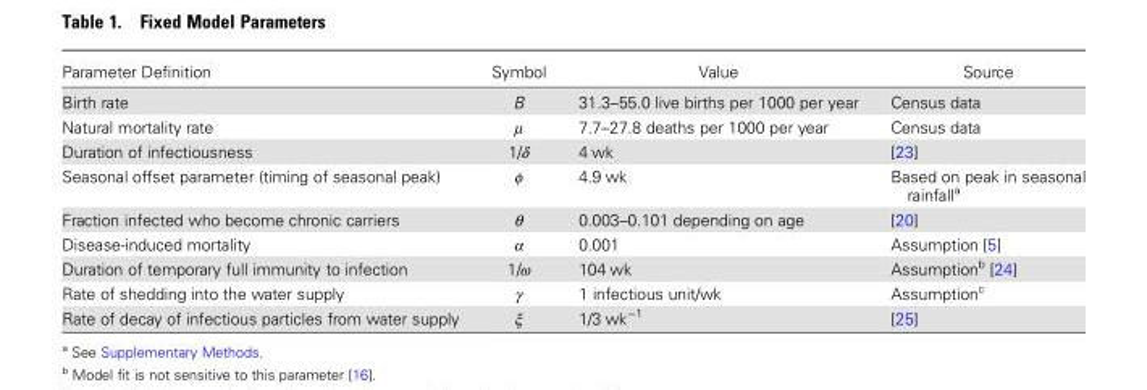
<table><thead><tr><td>Parameter Definition</td><td>Symbol</td><td>Value</td><td>Source</td></tr></thead><tbody><tr><td>Birth rate</td><td>B</td><td>31.3–55.0 live births per 1000 per year</td><td>Census data</td></tr><tr><td>Natural mortality rate</td><td>μ</td><td>7.7–27.8 deaths per 1000 per year</td><td>Census data</td></tr><tr><td>Duration of infectiousness</td><td>1/δ</td><td>4 wk</td><td>[23]</td></tr><tr><td>Seasonal offset parameter (timing of seasonal peak)</td><td>φ</td><td>4.9 wk</td><td>Based on peak in seasonal rainfall<sup>a</sup></td></tr><tr><td>Fraction infected who become chronic carriers</td><td>θ</td><td>0.003–0.101 depending on age</td><td>[20]</td></tr><tr><td>Disease-induced mortality</td><td>α</td><td>0.001</td><td>Assumption [5]</td></tr><tr><td>Duration of temporary full immunity to infection</td><td>1/ω</td><td>104 wk</td><td>Assumption<sup>b</sup> [24]</td></tr><tr><td>Rate of shedding into the water supply</td><td>γ</td><td>1 infectious unit/wk</td><td>Assumption<sup>c</sup></td></tr><tr><td>Rate of decay of infectious particles from water supply</td><td>ξ</td><td>1/3 wk<sup>−1</sup></td><td>[25]</td></tr></tbody></table>